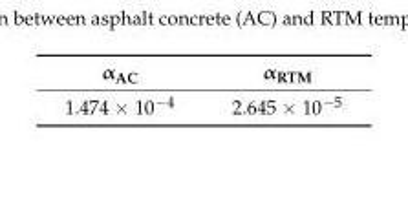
<table><thead><tr><td>α<sub>AC</sub></td><td>α<sub>RTM</sub></td></tr></thead><tbody><tr><td>1.474 × 10<sup>−4</sup></td><td>2.645 × 10<sup>−5</sup></td></tr></tbody></table>